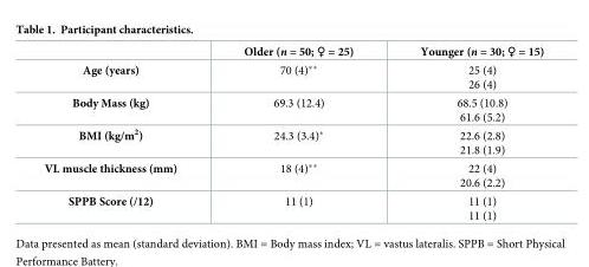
<table><thead><tr><td></td><td>Older (n = 50; ♀ = 25)</td><td>Younger (n = 30; ♀ = 15)</td></tr></thead><tbody><tr><td>Age (years)</td><td>70 (4)**</td><td>25 (4) 26 (4)</td></tr><tr><td>Body Mass (kg)</td><td>69.3 (12.4)</td><td>68.5 (10.8) 61.6 (5.2)</td></tr><tr><td>BMI (kg/m<sup>2</sup>)</td><td>24.3 (3.4)*</td><td>22.6 (2.8) 21.8 (1.9)</td></tr><tr><td>VL muscle thickness (mm)</td><td>18 (4)**</td><td>22 (4) 20.6 (2.2)</td></tr><tr><td>SPPB Score (/12)</td><td>11 (1)</td><td>11 (1) 11 (1)</td></tr></tbody></table>